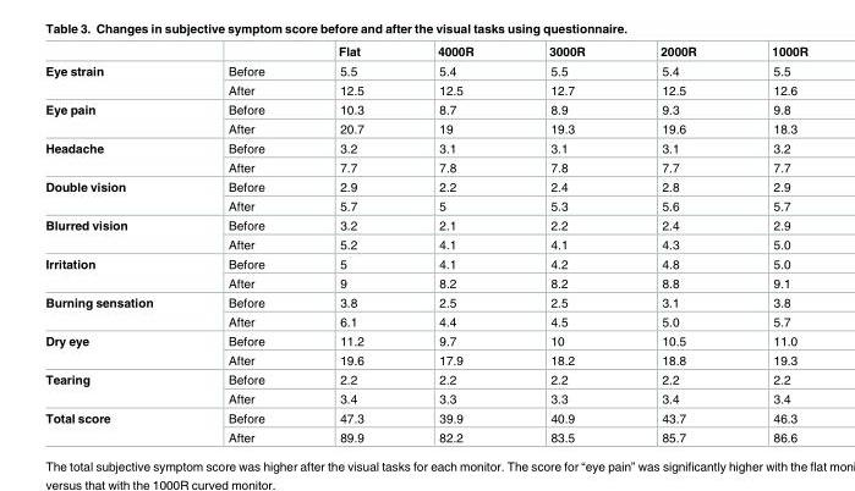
<table><thead><tr><td></td><td></td><td>Flat</td><td>4000R</td><td>3000R</td><td>2000R</td><td>1000R</td></tr></thead><tbody><tr><td rowspan="2">Eye strain</td><td>Before</td><td>5.5</td><td>5.4</td><td>5.5</td><td>5.4</td><td>5.5</td></tr><tr><td>After</td><td>12.5</td><td>12.5</td><td>12.7</td><td>12.5</td><td>12.6</td></tr><tr><td rowspan="2">Eye pain</td><td>Before</td><td>10.3</td><td>8.7</td><td>8.9</td><td>9.3</td><td>9.8</td></tr><tr><td>After</td><td>20.7</td><td>19</td><td>19.3</td><td>19.6</td><td>18.3</td></tr><tr><td rowspan="2">Headache</td><td>Before</td><td>3.2</td><td>3.1</td><td>3.1</td><td>3.1</td><td>3.2</td></tr><tr><td>After</td><td>7.7</td><td>7.8</td><td>7.8</td><td>7.7</td><td>7.7</td></tr><tr><td rowspan="2">Double vision</td><td>Before</td><td>2.9</td><td>2.2</td><td>2.4</td><td>2.8</td><td>2.9</td></tr><tr><td>After</td><td>5.7</td><td>5</td><td>5.3</td><td>5.6</td><td>5.7</td></tr><tr><td rowspan="2">Blurred vision</td><td>Before</td><td>3.2</td><td>2.1</td><td>2.2</td><td>2.4</td><td>2.9</td></tr><tr><td>After</td><td>5.2</td><td>4.1</td><td>4.1</td><td>4.3</td><td>5.0</td></tr><tr><td rowspan="2">Irritation</td><td>Before</td><td>5</td><td>4.1</td><td>4.2</td><td>4.8</td><td>5.0</td></tr><tr><td>After</td><td>9</td><td>8.2</td><td>8.2</td><td>8.8</td><td>9.1</td></tr><tr><td rowspan="2">Burning sensation</td><td>Before</td><td>3.8</td><td>2.5</td><td>2.5</td><td>3.1</td><td>3.8</td></tr><tr><td>After</td><td>6.1</td><td>4.4</td><td>4.5</td><td>5.0</td><td>5.7</td></tr><tr><td rowspan="2">Dry eye</td><td>Before</td><td>11.2</td><td>9.7</td><td>10</td><td>10.5</td><td>11.0</td></tr><tr><td>After</td><td>19.6</td><td>17.9</td><td>18.2</td><td>18.8</td><td>19.3</td></tr><tr><td rowspan="2">Tearing</td><td>Before</td><td>2.2</td><td>2.2</td><td>2.2</td><td>2.2</td><td>2.2</td></tr><tr><td>After</td><td>3.4</td><td>3.3</td><td>3.3</td><td>3.4</td><td>3.4</td></tr><tr><td rowspan="2">Total score</td><td>Before</td><td>47.3</td><td>39.9</td><td>40.9</td><td>43.7</td><td>46.3</td></tr><tr><td>After</td><td>89.9</td><td>82.2</td><td>83.5</td><td>85.7</td><td>86.6</td></tr></tbody></table>